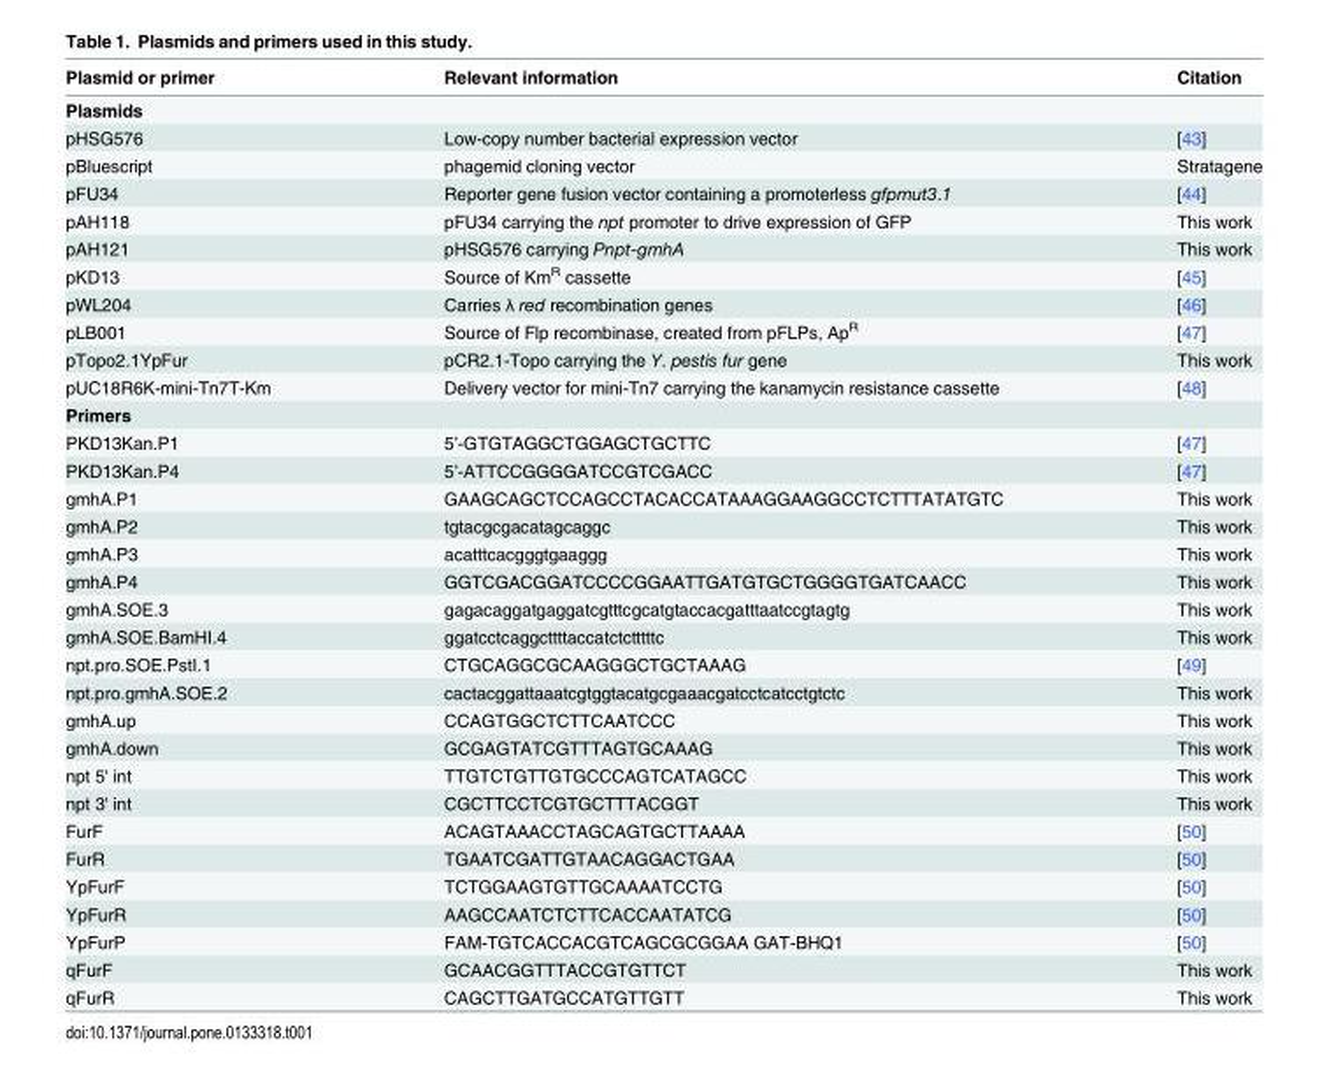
<table><thead><tr><td>Plasmid or primer</td><td>Relevant information</td><td>Citation</td></tr></thead><tbody><tr><td colspan="3">Plasmids</td></tr><tr><td>pHSG576</td><td>Low-copy number bacterial expression vector</td><td>[43]</td></tr><tr><td>pBluescript</td><td>phagemid cloning vector</td><td>Stratagene</td></tr><tr><td>pFU34</td><td>Reporter gene fusion vector containing a promoterless gfpmut3.1</td><td>[44]</td></tr><tr><td>pAH118</td><td>pFU34 carrying the npt promoter to drive expression of GFP</td><td>This work</td></tr><tr><td>pAH121</td><td>pHSG576 carrying Pnpt-gmhA</td><td>This work</td></tr><tr><td>pKD13</td><td>Source of Km<sup>R</sup> cassette</td><td>[45]</td></tr><tr><td>pWL204</td><td>Carries λ red recombination genes</td><td>[46]</td></tr><tr><td>pLB001</td><td>Source of Flp recombinase, created from pFLPs, Ap<sup>R</sup></td><td>[47]</td></tr><tr><td>pTopo2.1YpFur</td><td>pCR2.1-Topo carrying the Y. pestis fur gene</td><td>This work</td></tr><tr><td>pUC18R6K-mini-Tn7T-Km</td><td>Delivery vector for mini-Tn7 carrying the kanamycin resistance cassette</td><td>[48]</td></tr><tr><td colspan="3">Primers</td></tr><tr><td>PKD13Kan.P1</td><td>5’-GTGTAGGCTGGAGCTGCTTC</td><td>[47]</td></tr><tr><td>PKD13Kan.P4</td><td>5’-ATTCCGGGGATCCGTCGACC</td><td>[47]</td></tr><tr><td>gmhA.P1</td><td>GAAGCAGCTCCAGCCTACACCATAAAGGAAGGCCTCTTTATATGTC</td><td>This work</td></tr><tr><td>gmhA.P2</td><td>tgtacgcgacatagcaggc</td><td>This work</td></tr><tr><td>gmhA.P3</td><td>acatttcacgggtgaaggg</td><td>This work</td></tr><tr><td>gmhA.P4</td><td>GGTCGACGGATCCCCGGAATTGATGTGCTGGGGTGATCAACC</td><td>This work</td></tr><tr><td>gmhA.SOE.3</td><td>gagacaggatgaggatcgtttcgcatgtaccacgatttaatccgtagtg</td><td>This work</td></tr><tr><td>gmhA.SOE.BamHI.4</td><td>ggatcctcaggcttttaccatctctttttc</td><td>This work</td></tr><tr><td>npt.pro.SOE.PstI.1</td><td>CTGCAGGCGCAAGGGCTGCTAAAG</td><td>[49]</td></tr><tr><td>npt.pro.gmhA.SOE.2</td><td>cactacggattaaatcgtggtacatgcgaaacgatcctcatcctgtctc</td><td>This work</td></tr><tr><td>gmhA.up</td><td>CCAGTGGCTCTTCAATCCC</td><td>This work</td></tr><tr><td>gmhA.down</td><td>GCGAGTATCGTTTAGTGCAAAG</td><td>This work</td></tr><tr><td>npt 5&#x27; int</td><td>TTGTCTGTTGTGCCCAGTCATAGCC</td><td>This work</td></tr><tr><td>npt 3&#x27; int</td><td>CGCTTCCTCGTGCTTTACGGT</td><td>This work</td></tr><tr><td>FurF</td><td>ACAGTAAACCTAGCAGTGCTTAAAA</td><td>[50]</td></tr><tr><td>FurR</td><td>TGAATCGATTGTAACAGGACTGAA</td><td>[50]</td></tr><tr><td>YpFurF</td><td>TCTGGAAGTGTTGCAAAATCCTG</td><td>[50]</td></tr><tr><td>YpFurR</td><td>AAGCCAATCTCTTCACCAATATCG</td><td>[50]</td></tr><tr><td>YpFurP</td><td>FAM-TGTCACCACGTCAGCGCGGAA GAT-BHQ1</td><td>[50]</td></tr><tr><td>qFurF</td><td>GCAACGGTTTACCGTGTTCT</td><td>This work</td></tr><tr><td>qFurR</td><td>CAGCTTGATGCCATGTTGTT</td><td>This work</td></tr></tbody></table>